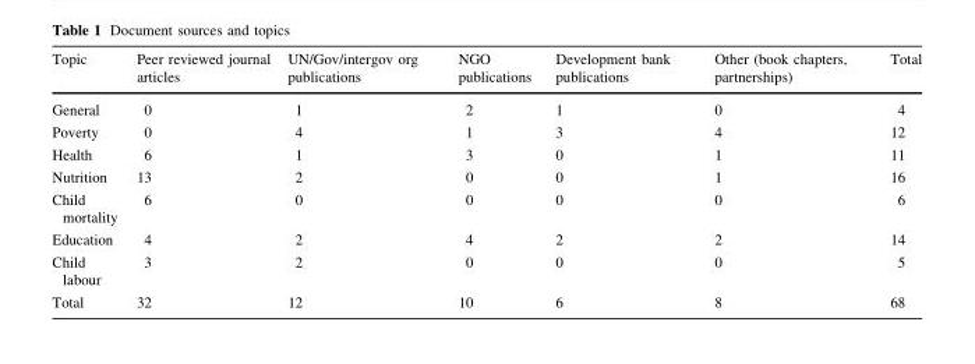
<table><thead><tr><td>Topic</td><td>Peer reviewed journal articles</td><td>UN/Gov/intergov org publications</td><td>NGO publications</td><td>Development bank publications</td><td>Other (book chapters, partnerships)</td><td>Total</td></tr></thead><tbody><tr><td>General</td><td>0</td><td>1</td><td>2</td><td>1</td><td>0</td><td>4</td></tr><tr><td>Poverty</td><td>0</td><td>4</td><td>1</td><td>3</td><td>4</td><td>12</td></tr><tr><td>Health</td><td>6</td><td>1</td><td>3</td><td>0</td><td>1</td><td>11</td></tr><tr><td>Nutrition</td><td>13</td><td>2</td><td>0</td><td>0</td><td>1</td><td>16</td></tr><tr><td>Child mortality</td><td>6</td><td>0</td><td>0</td><td>0</td><td>0</td><td>6</td></tr><tr><td>Education</td><td>4</td><td>2</td><td>4</td><td>2</td><td>2</td><td>14</td></tr><tr><td>Child labour</td><td>3</td><td>2</td><td>0</td><td>0</td><td>0</td><td>5</td></tr><tr><td>Total</td><td>32</td><td>12</td><td>10</td><td>6</td><td>8</td><td>68</td></tr></tbody></table>